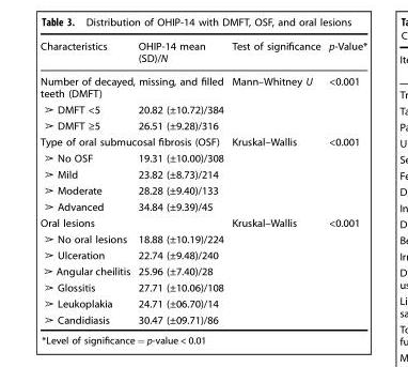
<table><thead><tr><td>Characteristics</td><td>OHIP-14 mean (SD)/N</td><td>Test of significance</td><td>p-Value*</td></tr></thead><tbody><tr><td colspan="2">Number of decayed, missing, and filled teeth (DMFT)</td><td>Mann–Whitney U</td><td>&lt;0.001</td></tr><tr><td>➢ DMFT &lt;5</td><td>20.82 (±10.72)/384</td><td></td><td></td></tr><tr><td>➢ DMFT ≥5</td><td>26.51 (±9.28)/316</td><td></td><td></td></tr><tr><td colspan="2">Type of oral submucosal fibrosis (OSF)</td><td>Kruskal–Wallis</td><td>&lt;0.001</td></tr><tr><td>➢ No OSF</td><td>19.31 (±10.00)/308</td><td></td><td></td></tr><tr><td>➢ Mild</td><td>23.82 (±8.73)/214</td><td></td><td></td></tr><tr><td>➢ Moderate</td><td>28.28 (±9.40)/133</td><td></td><td></td></tr><tr><td>➢ Advanced</td><td>34.84 (±9.39)/45</td><td></td><td></td></tr><tr><td colspan="2">Oral lesions</td><td>Kruskal–Wallis</td><td>&lt;0.001</td></tr><tr><td>➢ No oral lesions</td><td>18.88 (±10.19)/224</td><td></td><td></td></tr><tr><td>➢ Ulceration</td><td>22.74 (±9.48)/240</td><td></td><td></td></tr><tr><td>➢ Angular cheilitis</td><td>25.96 (±7.40)/28</td><td></td><td></td></tr><tr><td>➢ Glossitis</td><td>27.71 (±10.06)/108</td><td></td><td></td></tr><tr><td>➢ Leukoplakia</td><td>24.71 (±06.70)/14</td><td></td><td></td></tr><tr><td>➢ Candidiasis</td><td>30.47 (±09.71)/86</td><td></td><td></td></tr></tbody></table>